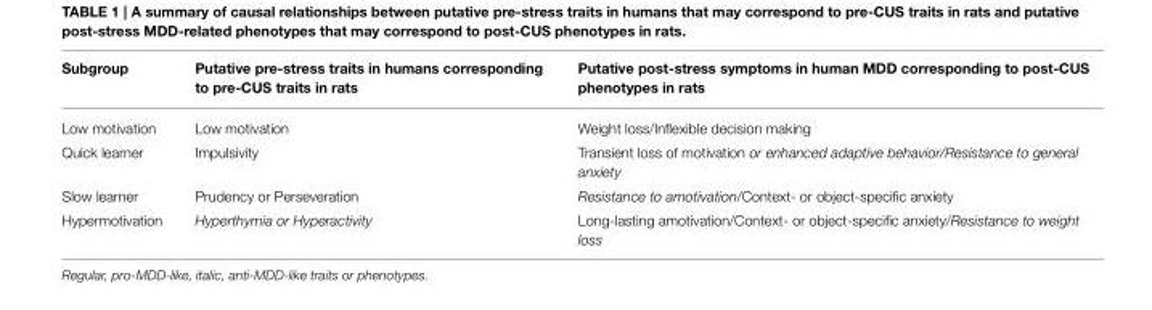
<table><thead><tr><td>Subgroup</td><td>Putative pre-stress traits in humans corresponding to pre-CUS traits in rats</td><td>Putative post-stress symptoms in human MDD corresponding to post-CUS phenotypes in rats</td></tr></thead><tbody><tr><td>Low motivation</td><td>Low motivation</td><td>Weight loss/Inflexible decision making</td></tr><tr><td>Quick learner</td><td>Impulsivity</td><td>Transient loss of motivation or enhanced adaptive behavior/Resistance to general anxiety</td></tr><tr><td>Slow learner</td><td>Prudency or Perseveration</td><td>Resistance to amotivation/Context- or object-specific anxiety</td></tr><tr><td>Hypermotivation</td><td>Hyperthymia or Hyperactivity</td><td>Long-lasting amotivation/Context- or object-specific anxiety/Resistance to weight loss</td></tr></tbody></table>